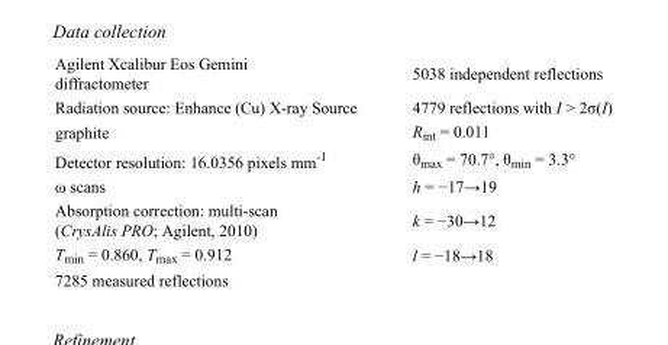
<table><tbody><tr><td>Agilent Xcalibur Eos Gemini diffractometer</td><td>5038 independent reflections</td></tr><tr><td>Radiation source: Enhance (Cu) X-ray Source</td><td>4779 reflections with I &gt; 2σ(I)</td></tr><tr><td>graphite</td><td>R<sub>int</sub> = 0.011</td></tr><tr><td>Detector resolution: 16.0356 pixels mm<sup>-1</sup></td><td>θ<sub>max</sub> = 70.7°, θ<sub>min</sub> = 3.3°</td></tr><tr><td>ω scans</td><td>h = −17→19</td></tr><tr><td>Absorption correction: multi-scan (CrysAlis PRO; Agilent, 2010)</td><td>k = −30→12</td></tr><tr><td>T<sub>min</sub> = 0.860, T<sub>max</sub> = 0.912</td><td>l = −18→18</td></tr><tr><td>7285 measured reflections</td><td></td></tr></tbody></table>